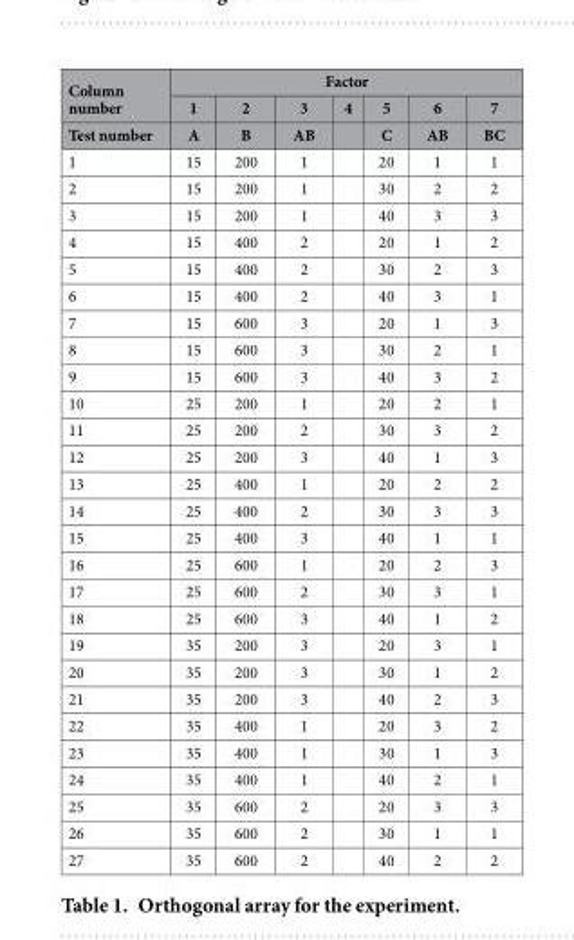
<table><thead><tr><td rowspan="3">Column number Test number</td><td colspan="7">Factor</td></tr><tr><td rowspan="2">1 A</td><td rowspan="2">2 B</td><td rowspan="2">3 AB</td><td rowspan="2">4</td><td rowspan="2">5 C</td><td rowspan="2">6 AB</td><td rowspan="2">7 BC</td></tr><tr></tr></thead><tbody><tr><td>1</td><td>15</td><td>200</td><td>1</td><td></td><td>20</td><td>1</td><td>1</td></tr><tr><td>2</td><td>15</td><td>200</td><td>1</td><td></td><td>30</td><td>2</td><td>2</td></tr><tr><td>3</td><td>15</td><td>200</td><td>1</td><td></td><td>40</td><td>3</td><td>3</td></tr><tr><td>4</td><td>15</td><td>400</td><td>2</td><td></td><td>20</td><td>1</td><td>2</td></tr><tr><td>5</td><td>15</td><td>400</td><td>2</td><td></td><td>30</td><td>2</td><td>3</td></tr><tr><td>6</td><td>15</td><td>400</td><td>2</td><td></td><td>40</td><td>3</td><td>1</td></tr><tr><td>7</td><td>15</td><td>600</td><td>3</td><td></td><td>20</td><td>1</td><td>3</td></tr><tr><td>8</td><td>15</td><td>600</td><td>3</td><td></td><td>30</td><td>2</td><td>1</td></tr><tr><td>9</td><td>15</td><td>600</td><td>3</td><td></td><td>40</td><td>3</td><td>2</td></tr><tr><td>10</td><td>25</td><td>200</td><td>1</td><td></td><td>20</td><td>2</td><td>1</td></tr><tr><td>11</td><td>25</td><td>200</td><td>2</td><td></td><td>30</td><td>3</td><td>2</td></tr><tr><td>12</td><td>25</td><td>200</td><td>3</td><td></td><td>40</td><td>1</td><td>3</td></tr><tr><td>13</td><td>25</td><td>400</td><td>1</td><td></td><td>20</td><td>2</td><td>2</td></tr><tr><td>14</td><td>25</td><td>400</td><td>2</td><td></td><td>30</td><td>3</td><td>3</td></tr><tr><td>15</td><td>25</td><td>400</td><td>3</td><td></td><td>40</td><td>1</td><td>1</td></tr><tr><td>16</td><td>25</td><td>600</td><td>1</td><td></td><td>20</td><td>2</td><td>3</td></tr><tr><td>17</td><td>25</td><td>600</td><td>2</td><td></td><td>30</td><td>3</td><td>1</td></tr><tr><td>18</td><td>25</td><td>600</td><td>3</td><td></td><td>40</td><td>1</td><td>2</td></tr><tr><td>19</td><td>35</td><td>200</td><td>3</td><td></td><td>20</td><td>3</td><td>1</td></tr><tr><td>20</td><td>35</td><td>200</td><td>3</td><td></td><td>30</td><td>1</td><td>2</td></tr><tr><td>21</td><td>35</td><td>200</td><td>3</td><td></td><td>40</td><td>2</td><td>3</td></tr><tr><td>22</td><td>35</td><td>400</td><td>1</td><td></td><td>20</td><td>3</td><td>2</td></tr><tr><td>23</td><td>35</td><td>400</td><td>1</td><td></td><td>30</td><td>1</td><td>3</td></tr><tr><td>24</td><td>35</td><td>400</td><td>1</td><td></td><td>40</td><td>2</td><td>1</td></tr><tr><td>25</td><td>35</td><td>600</td><td>2</td><td></td><td>20</td><td>3</td><td>3</td></tr><tr><td>26</td><td>35</td><td>600</td><td>2</td><td></td><td>30</td><td>1</td><td>1</td></tr><tr><td>27</td><td>35</td><td>600</td><td>2</td><td></td><td>40</td><td>2</td><td>2</td></tr></tbody></table>